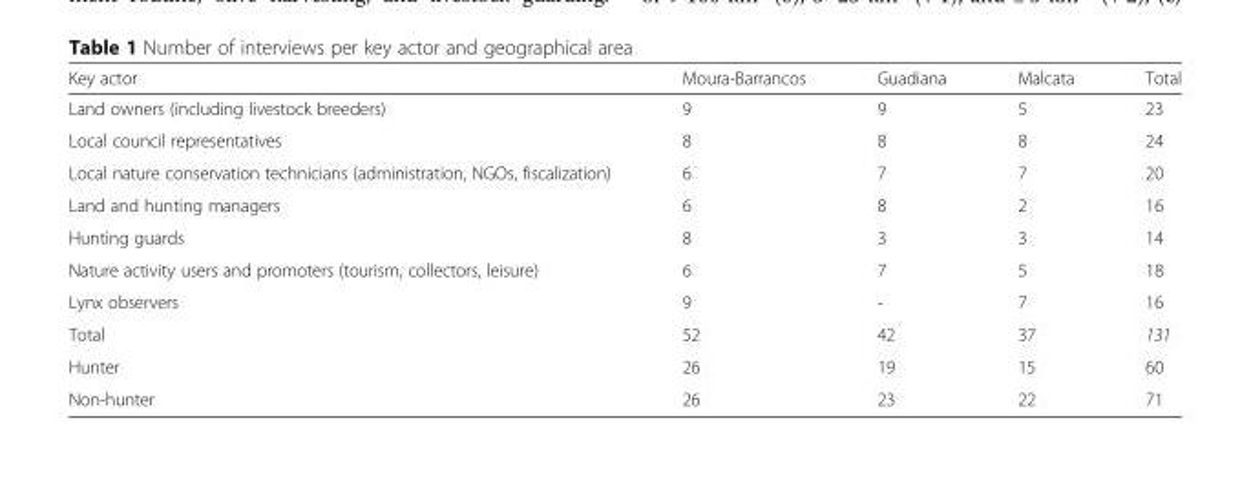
<table><thead><tr><td>Key actor</td><td>Moura-Barrancos</td><td>Guadiana</td><td>Malcata</td><td>Total</td></tr></thead><tbody><tr><td>Land owners (including livestock breeders)</td><td>9</td><td>9</td><td>5</td><td>23</td></tr><tr><td>Local council representatives</td><td>8</td><td>8</td><td>8</td><td>24</td></tr><tr><td>Local nature conservation technicians (administration, NGOs, fiscalization)</td><td>6</td><td>7</td><td>7</td><td>20</td></tr><tr><td>Land and hunting managers</td><td>6</td><td>8</td><td>2</td><td>16</td></tr><tr><td>Hunting guards</td><td>8</td><td>3</td><td>3</td><td>14</td></tr><tr><td>Nature activity users and promoters (tourism, collectors, leisure)</td><td>6</td><td>7</td><td>5</td><td>18</td></tr><tr><td>Lynx observers</td><td>9</td><td>-</td><td>7</td><td>16</td></tr><tr><td>Total</td><td>52</td><td>42</td><td>37</td><td>131</td></tr><tr><td>Hunter</td><td>26</td><td>19</td><td>15</td><td>60</td></tr><tr><td>Non-hunter</td><td>26</td><td>23</td><td>22</td><td>71</td></tr></tbody></table>